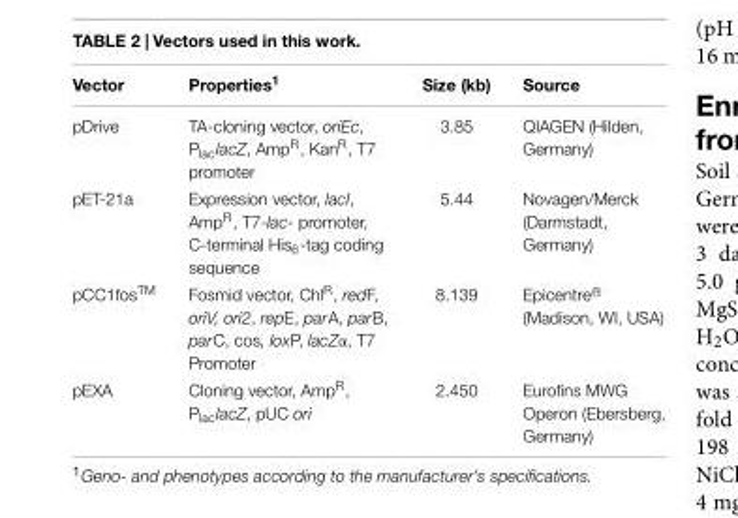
<table><thead><tr><td>Vector</td><td>Properties<sup>1</sup></td><td>Size (kb)</td><td>Source</td></tr></thead><tbody><tr><td>pDrive</td><td>TA-cloning vector, oriEc, P<sub>lac</sub>lacZ, Amp<sup>R</sup>, Kan<sup>R</sup>, T7 promoter</td><td>3.85</td><td>QIAGEN (Hilden, Germany)</td></tr><tr><td>pET-21a</td><td>Expression vector, lacI, Amp<sup>R</sup>, T7-lac- promoter, C-terminal His<sub>6</sub>-tag coding sequence</td><td>5.44</td><td>Novagen/Merck (Darmstadt, Germany)</td></tr><tr><td>pCC1fos<sup>TM</sup></td><td>Fosmid vector, Chl<sup>R</sup>, redF, oriV, ori2, repE, parA, parB, parC, cos, loxP, lacZα, T7 Promoter</td><td>8.139</td><td>Epicentre R⃝ (Madison, WI, USA)</td></tr><tr><td>pEXA</td><td>Cloning vector, Amp<sup>R</sup>, P<sub>lac</sub>lacZ, pUC ori</td><td>2.450</td><td>Eurofins MWG Operon (Ebersberg, Germany)</td></tr></tbody></table>